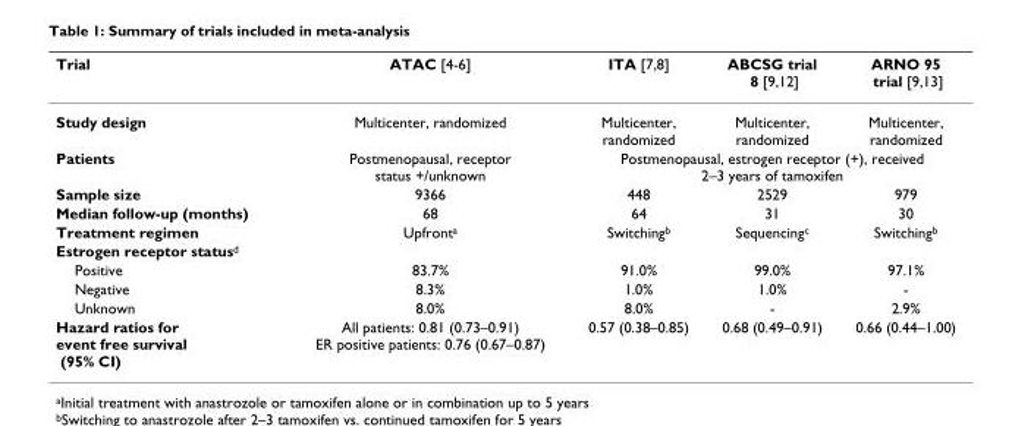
<table><thead><tr><td>Trial</td><td>ATAC [4-6]</td><td>ITA [7,8]</td><td>ABCSG trial 8 [9,12]</td><td>ARNO 95 trial [9,13]</td></tr></thead><tbody><tr><td>Study design</td><td>Multicenter, randomized</td><td>Multicenter, randomized</td><td>Multicenter, randomized</td><td>Multicenter, randomized</td></tr><tr><td>Patients</td><td>Postmenopausal, receptor status +/unknown</td><td colspan="3">Postmenopausal, estrogen receptor (+), received 2–3 years of tamoxifen</td></tr><tr><td>Sample size</td><td>9366</td><td>448</td><td>2529</td><td>979</td></tr><tr><td>Median follow-up (months)</td><td>68</td><td>64</td><td>31</td><td>30</td></tr><tr><td>Treatment regimen</td><td>Upfront<sup>a</sup></td><td>Switching<sup>b</sup></td><td>Sequencing<sup>c</sup></td><td>Switching<sup>b</sup></td></tr><tr><td colspan="5">Estrogen receptor status<sup>d</sup></td></tr><tr><td>Positive</td><td>83.7%</td><td>91.0%</td><td>99.0%</td><td>97.1%</td></tr><tr><td>Negative</td><td>8.3%</td><td>1.0%</td><td>1.0%</td><td>-</td></tr><tr><td>Unknown</td><td>8.0%</td><td>8.0%</td><td>-</td><td>2.9%</td></tr><tr><td>Hazard ratios for event free survival (95% CI)</td><td>All patients: 0.81 (0.73–0.91) ER positive patients: 0.76 (0.67–0.87)</td><td>0.57 (0.38–0.85)</td><td>0.68 (0.49–0.91)</td><td>0.66 (0.44–1.00)</td></tr></tbody></table>